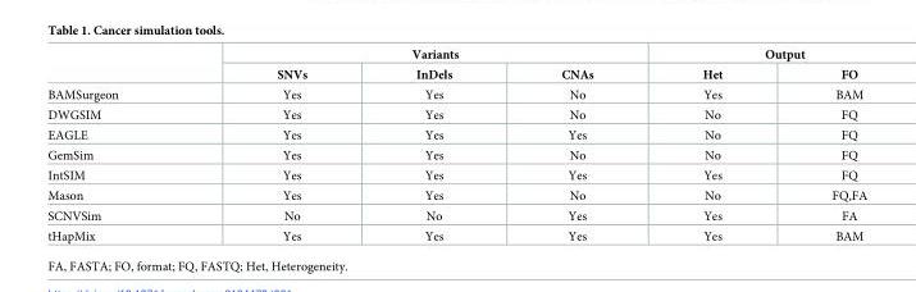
<table><thead><tr><td rowspan="2"></td><td colspan="3">Variants</td><td colspan="2">Output</td></tr><tr><td>SNVs</td><td>InDels</td><td>CNAs</td><td>Het</td><td>FO</td></tr></thead><tbody><tr><td>BAMSurgeon</td><td>Yes</td><td>Yes</td><td>No</td><td>Yes</td><td>BAM</td></tr><tr><td>DWGSIM</td><td>Yes</td><td>Yes</td><td>No</td><td>No</td><td>FQ</td></tr><tr><td>EAGLE</td><td>Yes</td><td>Yes</td><td>Yes</td><td>No</td><td>FQ</td></tr><tr><td>GemSim</td><td>Yes</td><td>Yes</td><td>No</td><td>No</td><td>FQ</td></tr><tr><td>IntSIM</td><td>Yes</td><td>Yes</td><td>Yes</td><td>Yes</td><td>FQ</td></tr><tr><td>Mason</td><td>Yes</td><td>Yes</td><td>No</td><td>No</td><td>FQ,FA</td></tr><tr><td>SCNVSim</td><td>No</td><td>No</td><td>Yes</td><td>Yes</td><td>FA</td></tr><tr><td>tHapMix</td><td>Yes</td><td>Yes</td><td>Yes</td><td>Yes</td><td>BAM</td></tr></tbody></table>